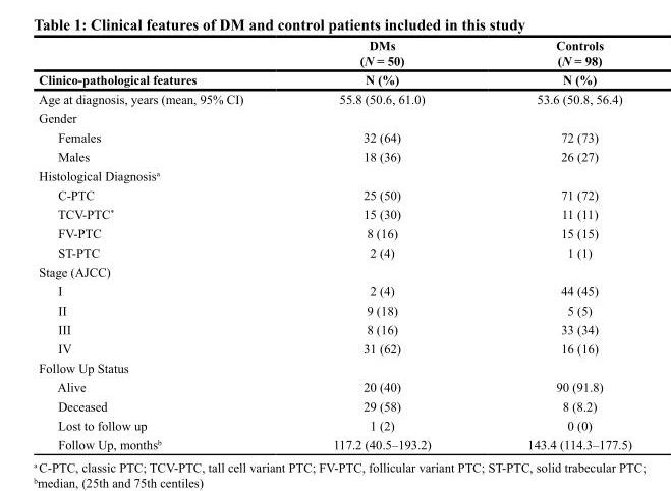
<table><thead><tr><td rowspan="2">Clinico-pathological features</td><td rowspan="2">DMs (N = 50) N (%)</td><td rowspan="2">Controls (N = 98) N (%)</td></tr><tr></tr></thead><tbody><tr><td>Age at diagnosis, years (mean, 95% CI)</td><td>55.8 (50.6, 61.0)</td><td>53.6 (50.8, 56.4)</td></tr><tr><td colspan="3">Gender</td></tr><tr><td>Females</td><td>32 (64)</td><td>72 (73)</td></tr><tr><td>Males</td><td>18 (36)</td><td>26 (27)</td></tr><tr><td colspan="3">Histological Diagnosis<sup>a</sup></td></tr><tr><td>C-PTC</td><td>25 (50)</td><td>71 (72)</td></tr><tr><td>TCV-PTC*</td><td>15 (30)</td><td>11 (11)</td></tr><tr><td>FV-PTC</td><td>8 (16)</td><td>15 (15)</td></tr><tr><td>ST-PTC</td><td>2 (4)</td><td>1 (1)</td></tr><tr><td colspan="3">Stage (AJCC)</td></tr><tr><td>I</td><td>2 (4)</td><td>44 (45)</td></tr><tr><td>II</td><td>9 (18)</td><td>5 (5)</td></tr><tr><td>III</td><td>8 (16)</td><td>33 (34)</td></tr><tr><td>IV</td><td>31 (62)</td><td>16 (16)</td></tr><tr><td colspan="3">Follow Up Status</td></tr><tr><td>Alive</td><td>20 (40)</td><td>90 (91.8)</td></tr><tr><td>Deceased</td><td>29 (58)</td><td>8 (8.2)</td></tr><tr><td>Lost to follow up</td><td>1 (2)</td><td>0 (0)</td></tr><tr><td>Follow Up, months<sup>b</sup></td><td>117.2 (40.5–193.2)</td><td>143.4 (114.3–177.5)</td></tr></tbody></table>